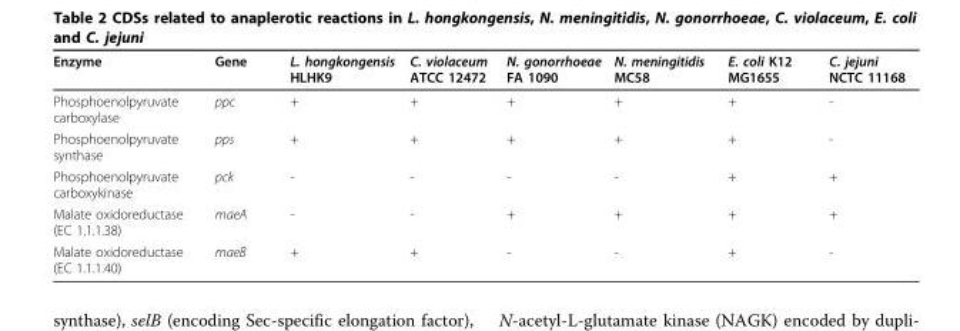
<table><thead><tr><td>Enzyme</td><td>Gene</td><td>L. hongkongensis HLHK9</td><td>C. violaceum ATCC 12472</td><td>N. gonorrhoeae FA 1090</td><td>N. meningitidis MC58</td><td>E. coli K12 MG1655</td><td>C. jejuni NCTC 11168</td></tr></thead><tbody><tr><td>Phosphoenolpyruvate carboxylase</td><td>ppc</td><td>+</td><td>+</td><td>+</td><td>+</td><td>+</td><td>-</td></tr><tr><td>Phosphoenolpyruvate synthase</td><td>pps</td><td>+</td><td>+</td><td>+</td><td>+</td><td>+</td><td>-</td></tr><tr><td>Phosphoenolpyruvate carboxykinase</td><td>pck</td><td>-</td><td>-</td><td>-</td><td>-</td><td>+</td><td>+</td></tr><tr><td>Malate oxidoreductase (EC 1.1.1.38)</td><td>maeA</td><td>-</td><td>-</td><td>+</td><td>+</td><td>+</td><td>+</td></tr><tr><td>Malate oxidoreductase (EC 1.1.1.40)</td><td>maeB</td><td>+</td><td>+</td><td>-</td><td>-</td><td>+</td><td>-</td></tr></tbody></table>